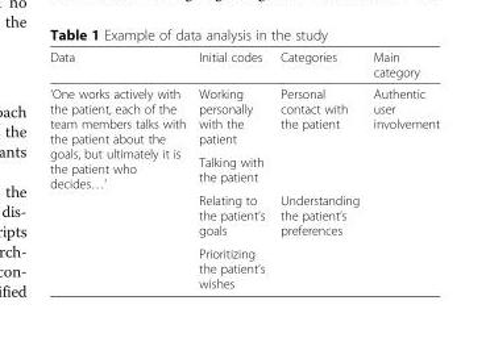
<table><thead><tr><td>Data</td><td>Initial codes</td><td>Categories</td><td>Main category</td></tr></thead><tbody><tr><td rowspan="4">‘One works actively with the patient, each of the team members talks with the patient about the goals, but ultimately it is the patient who decides…’</td><td>Working personally with the patient</td><td>Personal contact with the patient</td><td rowspan="4">Authentic user involvement</td></tr><tr><td>Talking with the patient</td><td></td></tr><tr><td>Relating to the patient’s goals</td><td rowspan="2">Understanding the patient’s preferences</td></tr><tr><td>Prioritizing the patient’s wishes</td></tr></tbody></table>